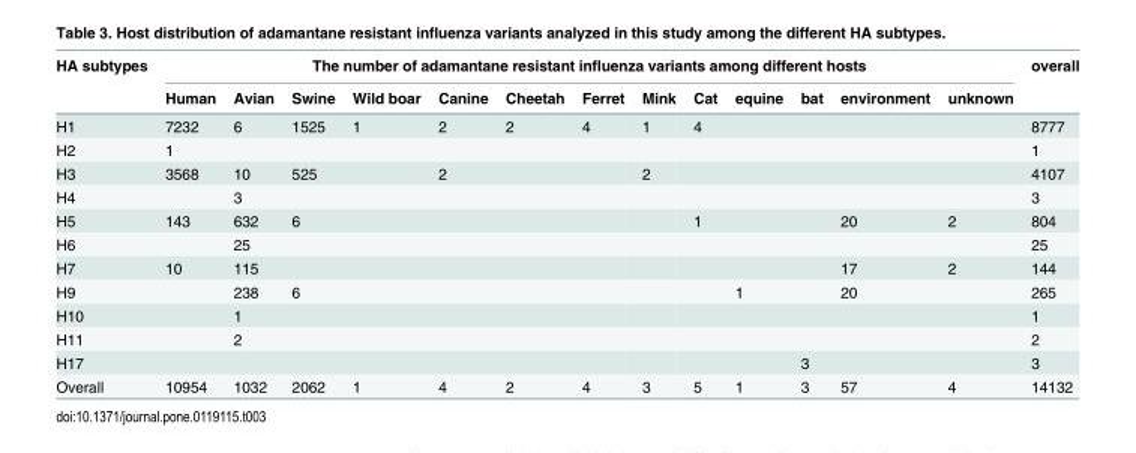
<table><thead><tr><td rowspan="2">HA subtypes</td><td colspan="13">The number of adamantane resistant influenza variants among different hosts</td><td rowspan="2">overall</td></tr><tr><td>Human</td><td>Avian</td><td>Swine</td><td>Wild boar</td><td>Canine</td><td>Cheetah</td><td>Ferret</td><td>Mink</td><td>Cat</td><td>equine</td><td>bat</td><td>environment</td><td>unknown</td></tr></thead><tbody><tr><td>H1</td><td>7232</td><td>6</td><td>1525</td><td>1</td><td>2</td><td>2</td><td>4</td><td>1</td><td>4</td><td></td><td></td><td></td><td></td><td>8777</td></tr><tr><td>H2</td><td>1</td><td></td><td></td><td></td><td></td><td></td><td></td><td></td><td></td><td></td><td></td><td></td><td></td><td>1</td></tr><tr><td>H3</td><td>3568</td><td>10</td><td>525</td><td></td><td>2</td><td></td><td></td><td>2</td><td></td><td></td><td></td><td></td><td></td><td>4107</td></tr><tr><td>H4</td><td></td><td>3</td><td></td><td></td><td></td><td></td><td></td><td></td><td></td><td></td><td></td><td></td><td></td><td>3</td></tr><tr><td>H5</td><td>143</td><td>632</td><td>6</td><td></td><td></td><td></td><td></td><td></td><td>1</td><td></td><td></td><td>20</td><td>2</td><td>804</td></tr><tr><td>H6</td><td></td><td>25</td><td></td><td></td><td></td><td></td><td></td><td></td><td></td><td></td><td></td><td></td><td></td><td>25</td></tr><tr><td>H7</td><td>10</td><td>115</td><td></td><td></td><td></td><td></td><td></td><td></td><td></td><td></td><td></td><td>17</td><td>2</td><td>144</td></tr><tr><td>H9</td><td></td><td>238</td><td>6</td><td></td><td></td><td></td><td></td><td></td><td></td><td>1</td><td></td><td>20</td><td></td><td>265</td></tr><tr><td>H10</td><td></td><td>1</td><td></td><td></td><td></td><td></td><td></td><td></td><td></td><td></td><td></td><td></td><td></td><td>1</td></tr><tr><td>H11</td><td></td><td>2</td><td></td><td></td><td></td><td></td><td></td><td></td><td></td><td></td><td></td><td></td><td></td><td>2</td></tr><tr><td>H17</td><td></td><td></td><td></td><td></td><td></td><td></td><td></td><td></td><td></td><td></td><td>3</td><td></td><td></td><td>3</td></tr><tr><td>Overall</td><td>10954</td><td>1032</td><td>2062</td><td>1</td><td>4</td><td>2</td><td>4</td><td>3</td><td>5</td><td>1</td><td>3</td><td>57</td><td>4</td><td>14132</td></tr></tbody></table>